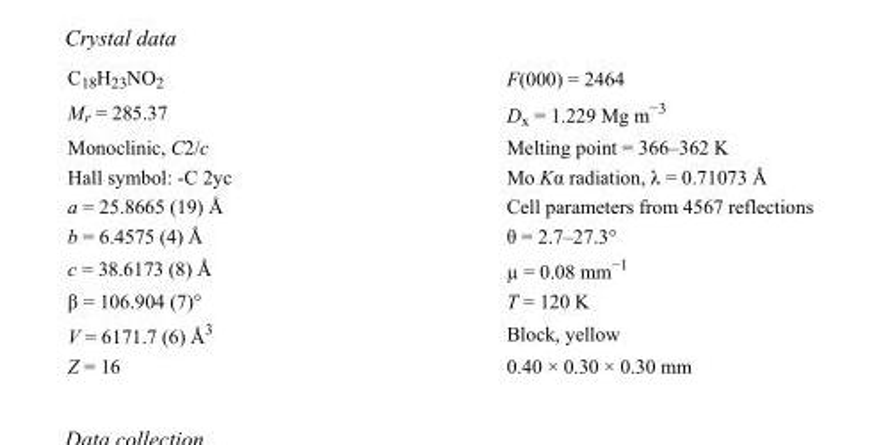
<table><tbody><tr><td>C<sub>18</sub>H<sub>23</sub>NO<sub>2</sub></td><td>F(000) = 2464</td></tr><tr><td>M<sub>r</sub> = 285.37</td><td>D<sub>x</sub> = 1.229 Mg m<sup>−3</sup></td></tr><tr><td>Monoclinic, C2/c</td><td>Melting point = 366–362 K</td></tr><tr><td>Hall symbol: -C 2yc</td><td>Mo Kα radiation, λ = 0.71073 Å</td></tr><tr><td>a = 25.8665 (19) Å</td><td>Cell parameters from 4567 reflections</td></tr><tr><td>b = 6.4575 (4) Å</td><td>θ = 2.7–27.3°</td></tr><tr><td>c = 38.6173 (8) Å</td><td>µ = 0.08 mm<sup>−1</sup></td></tr><tr><td>β = 106.904 (7)°</td><td>T = 120 K</td></tr><tr><td>V = 6171.7 (6) Å<sup>3</sup></td><td>Block, yellow</td></tr><tr><td>Z = 16</td><td>0.40 × 0.30 × 0.30 mm</td></tr></tbody></table>